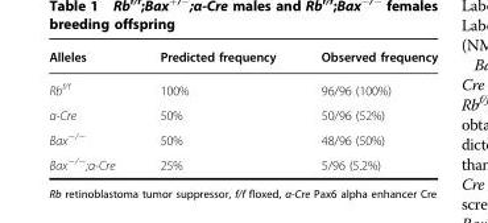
<table><thead><tr><td>Alleles</td><td>Predicted frequency</td><td>Observed frequency</td></tr></thead><tbody><tr><td>Rb<sup>f/f</sup></td><td>100%</td><td>96/96 (100%)</td></tr><tr><td>α-Cre</td><td>50%</td><td>50/96 (52%)</td></tr><tr><td>Bax<sup>−/−</sup></td><td>50%</td><td>48/96 (50%)</td></tr><tr><td>Bax<sup>−/−</sup>;α-Cre</td><td>25%</td><td>5/96 (5.2%)</td></tr></tbody></table>